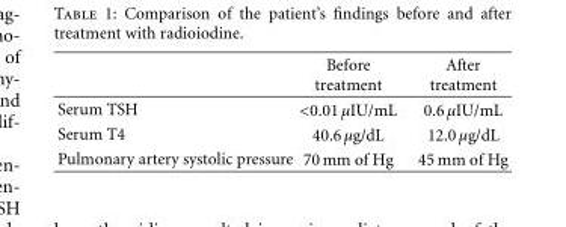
<table><thead><tr><td></td><td>Before treatment</td><td>After treatment</td></tr></thead><tbody><tr><td>Serum TSH</td><td>&lt;0.01 µIU/mL</td><td>0.6 µIU/mL</td></tr><tr><td>Serum T4</td><td>40.6 µg/dL</td><td>12.0 µg/dL</td></tr><tr><td>Pulmonary artery systolic pressure</td><td>70 mm of Hg</td><td>45 mm of Hg</td></tr></tbody></table>